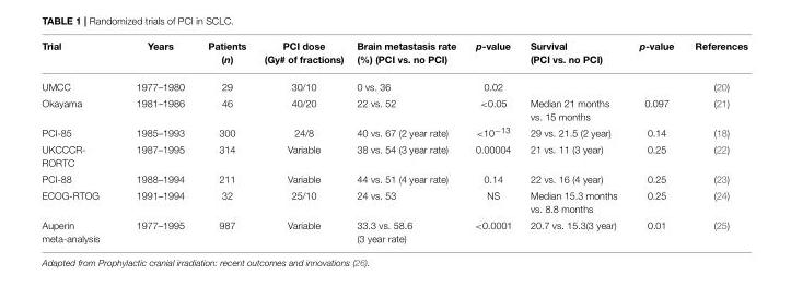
<table><thead><tr><td>Trial</td><td>Years</td><td>Patients (n)</td><td>PCI dose (Gy# of fractions)</td><td>Brain metastasis rate (%) (PCI vs. no PCI)</td><td>p-value</td><td>Survival (PCI vs. no PCI)</td><td>p-value</td><td>References</td></tr></thead><tbody><tr><td>UMCC</td><td>1977–1980</td><td>29</td><td>30/10</td><td>0 vs. 36</td><td>0.02</td><td></td><td></td><td>(20)</td></tr><tr><td>Okayama</td><td>1981–1986</td><td>46</td><td>40/20</td><td>22 vs. 52</td><td>&lt;0.05</td><td>Median 21 months vs. 15 months</td><td>0.097</td><td>(21)</td></tr><tr><td>PCI-85</td><td>1985–1993</td><td>300</td><td>24/8</td><td>40 vs. 67 (2 year rate)</td><td>&lt;10<sup>−13</sup></td><td>29 vs. 21.5 (2 year)</td><td>0.14</td><td>(18)</td></tr><tr><td>UKCCCR- RORTC</td><td>1987–1995</td><td>314</td><td>Variable</td><td>38 vs. 54 (3 year rate)</td><td>0.00004</td><td>21 vs. 11 (3 year)</td><td>0.25</td><td>(22)</td></tr><tr><td>PCI-88</td><td>1988–1994</td><td>211</td><td>Variable</td><td>44 vs. 51 (4 year rate)</td><td>0.14</td><td>22 vs. 16 (4 year)</td><td>0.25</td><td>(23)</td></tr><tr><td>ECOG-RTOG</td><td>1991–1994</td><td>32</td><td>25/10</td><td>24 vs. 53</td><td>NS</td><td>Median 15.3 months vs. 8.8 months</td><td>0.25</td><td>(24)</td></tr><tr><td>Auperin meta-analysis</td><td>1977–1995</td><td>987</td><td>Variable</td><td>33.3 vs. 58.6 (3 year rate)</td><td>&lt;0.0001</td><td>20.7 vs. 15.3(3 year)</td><td>0.01</td><td>(25)</td></tr></tbody></table>